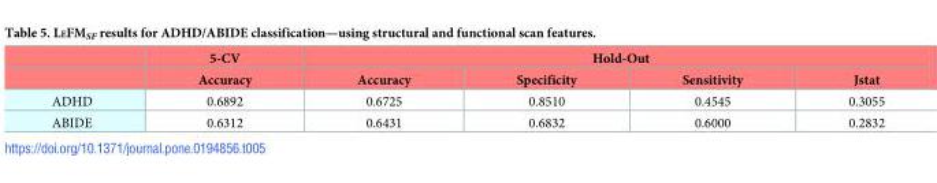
<table><thead><tr><td rowspan="2"></td><td rowspan="2">5-CV Accuracy</td><td colspan="4">Hold-Out</td></tr><tr><td>Accuracy</td><td>Specificity</td><td>Sensitivity</td><td>Jstat</td></tr></thead><tbody><tr><td>ADHD</td><td>0.6892</td><td>0.6725</td><td>0.8510</td><td>0.4545</td><td>0.3055</td></tr><tr><td>ABIDE</td><td>0.6312</td><td>0.6431</td><td>0.6832</td><td>0.6000</td><td>0.2832</td></tr></tbody></table>